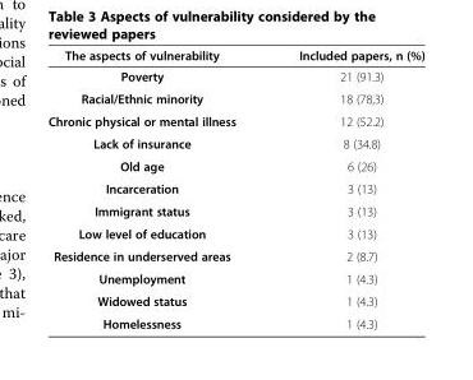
<table><thead><tr><td>The aspects of vulnerability</td><td>Included papers, n (%)</td></tr></thead><tbody><tr><td>Poverty</td><td>21 (91.3)</td></tr><tr><td>Racial/Ethnic minority</td><td>18 (78,3)</td></tr><tr><td>Chronic physical or mental illness</td><td>12 (52.2)</td></tr><tr><td>Lack of insurance</td><td>8 (34.8)</td></tr><tr><td>Old age</td><td>6 (26)</td></tr><tr><td>Incarceration</td><td>3 (13)</td></tr><tr><td>Immigrant status</td><td>3 (13)</td></tr><tr><td>Low level of education</td><td>3 (13)</td></tr><tr><td>Residence in underserved areas</td><td>2 (8.7)</td></tr><tr><td>Unemployment</td><td>1 (4.3)</td></tr><tr><td>Widowed status</td><td>1 (4.3)</td></tr><tr><td>Homelessness</td><td>1 (4.3)</td></tr></tbody></table>